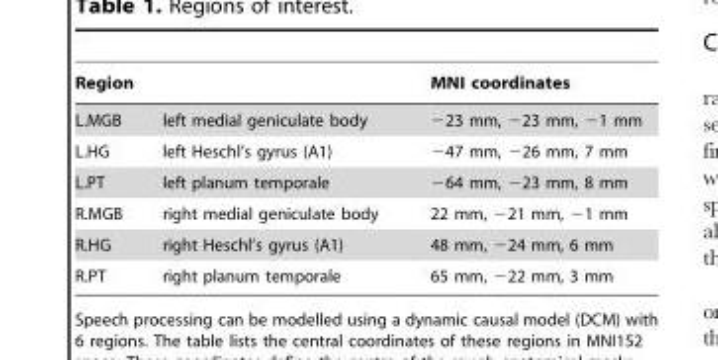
<table><thead><tr><td colspan="2">Region</td><td rowspan="2">MNI coordinates −23 mm, −23 mm, −1 mm</td></tr><tr><td>L.MGB</td><td>left medial geniculate body</td></tr></thead><tbody><tr><td>L.HG</td><td>left Heschl’s gyrus (A1)</td><td>−47 mm, −26 mm, 7 mm</td></tr><tr><td>L.PT</td><td>left planum temporale</td><td>−64 mm, −23 mm, 8 mm</td></tr><tr><td>R.MGB</td><td>right medial geniculate body</td><td>22 mm, −21 mm, −1 mm</td></tr><tr><td>R.HG</td><td>right Heschl’s gyrus (A1)</td><td>48 mm, −24 mm, 6 mm</td></tr><tr><td>R.PT</td><td>right planum temporale</td><td>65 mm, −22 mm, 3 mm</td></tr></tbody></table>